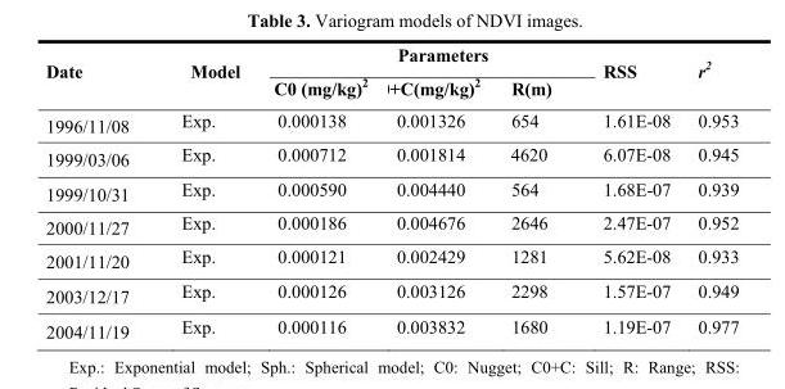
<table><thead><tr><td rowspan="2">Date</td><td rowspan="2">Model</td><td colspan="3">Parameters</td><td rowspan="2">RSS</td><td rowspan="2">r<sup>2</sup></td></tr><tr><td>C0 (mg/kg)<sup>2</sup></td><td>0+C(mg/kg)2</td><td>R(m)</td></tr></thead><tbody><tr><td>1996/11/08</td><td>Exp.</td><td>0.000138</td><td>0.001326</td><td>654</td><td>1.61E-08</td><td>0.953</td></tr><tr><td>1999/03/06</td><td>Exp.</td><td>0.000712</td><td>0.001814</td><td>4620</td><td>6.07E-08</td><td>0.945</td></tr><tr><td>1999/10/31</td><td>Exp.</td><td>0.000590</td><td>0.004440</td><td>564</td><td>1.68E-07</td><td>0.939</td></tr><tr><td>2000/11/27</td><td>Exp.</td><td>0.000186</td><td>0.004676</td><td>2646</td><td>2.47E-07</td><td>0.952</td></tr><tr><td>2001/11/20</td><td>Exp.</td><td>0.000121</td><td>0.002429</td><td>1281</td><td>5.62E-08</td><td>0.933</td></tr><tr><td>2003/12/17</td><td>Exp.</td><td>0.000126</td><td>0.003126</td><td>2298</td><td>1.57E-07</td><td>0.949</td></tr><tr><td>2004/11/19</td><td>Exp.</td><td>0.000116</td><td>0.003832</td><td>1680</td><td>1.19E-07</td><td>0.977</td></tr></tbody></table>